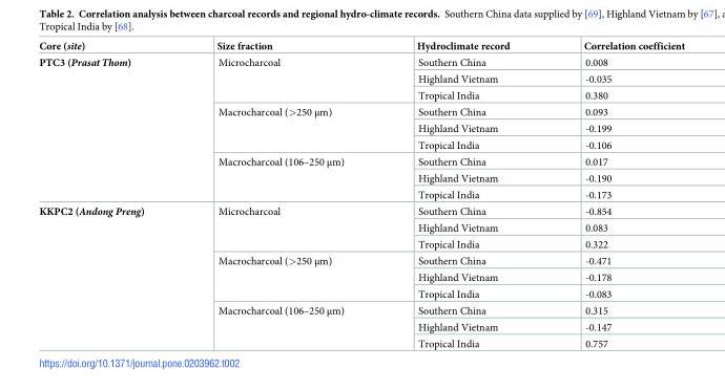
<table><thead><tr><td>Core (site)</td><td>Size fraction</td><td>Hydroclimate record</td><td>Correlation coefficient</td></tr></thead><tbody><tr><td rowspan="9">PTC3 (Prasat Thom)</td><td rowspan="3">Microcharcoal</td><td>Southern China</td><td>0.008</td></tr><tr><td>Highland Vietnam</td><td>-0.035</td></tr><tr><td>Tropical India</td><td>0.380</td></tr><tr><td rowspan="3">Macrocharcoal (&gt;250 μm)</td><td>Southern China</td><td>0.093</td></tr><tr><td>Highland Vietnam</td><td>-0.199</td></tr><tr><td>Tropical India</td><td>-0.106</td></tr><tr><td rowspan="3">Macrocharcoal (106–250 μm)</td><td>Southern China</td><td>0.017</td></tr><tr><td>Highland Vietnam</td><td>-0.190</td></tr><tr><td>Tropical India</td><td>-0.173</td></tr><tr><td rowspan="9">KKPC2 (Andong Preng)</td><td rowspan="3">Microcharcoal</td><td>Southern China</td><td>-0.854</td></tr><tr><td>Highland Vietnam</td><td>0.083</td></tr><tr><td>Tropical India</td><td>0.322</td></tr><tr><td rowspan="3">Macrocharcoal (&gt;250 μm)</td><td>Southern China</td><td>-0.471</td></tr><tr><td>Highland Vietnam</td><td>-0.178</td></tr><tr><td>Tropical India</td><td>-0.083</td></tr><tr><td rowspan="3">Macrocharcoal (106–250 μm)</td><td>Southern China</td><td>0.315</td></tr><tr><td>Highland Vietnam</td><td>-0.147</td></tr><tr><td>Tropical India</td><td>0.757</td></tr></tbody></table>